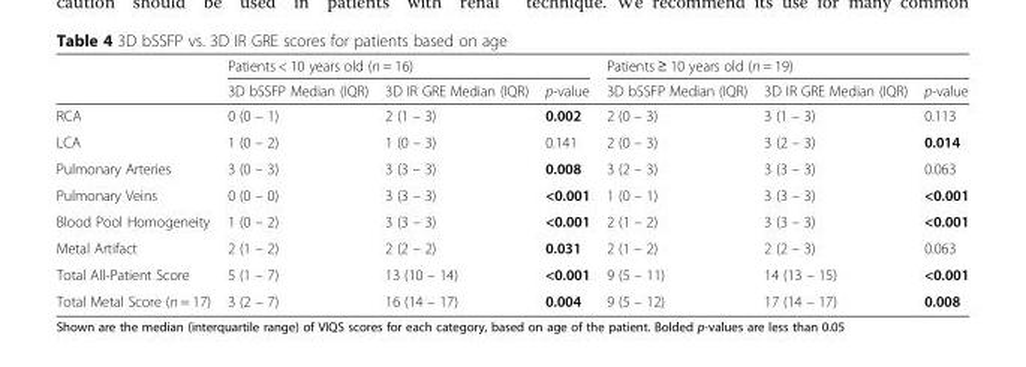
<table><thead><tr><td rowspan="2"></td><td colspan="3">Patients &lt; 10 years old (n = 16)</td><td colspan="3">Patients ≥ 10 years old (n = 19)</td></tr><tr><td>3D bSSFP Median (IQR)</td><td>3D IR GRE Median (IQR)</td><td>p-value</td><td>3D bSSFP Median (IQR)</td><td>3D IR GRE Median (IQR)</td><td>p-value</td></tr></thead><tbody><tr><td>RCA</td><td>0 (0 – 1)</td><td>2 (1 – 3)</td><td>0.002</td><td>2 (0 – 3)</td><td>3 (1 – 3)</td><td>0.113</td></tr><tr><td>LCA</td><td>1 (0 – 2)</td><td>1 (0 – 3)</td><td>0.141</td><td>2 (0 – 3)</td><td>3 (2 – 3)</td><td>0.014</td></tr><tr><td>Pulmonary Arteries</td><td>3 (0 – 3)</td><td>3 (3 – 3)</td><td>0.008</td><td>3 (2 – 3)</td><td>3 (3 – 3)</td><td>0.063</td></tr><tr><td>Pulmonary Veins</td><td>0 (0 – 0)</td><td>3 (3 – 3)</td><td>&lt;0.001</td><td>1 (0 – 1)</td><td>3 (3 – 3)</td><td>&lt;0.001</td></tr><tr><td>Blood Pool Homogeneity</td><td>1 (0 – 2)</td><td>3 (3 – 3)</td><td>&lt;0.001</td><td>2 (1 – 2)</td><td>3 (3 – 3)</td><td>&lt;0.001</td></tr><tr><td>Metal Artifact</td><td>2 (1 – 2)</td><td>2 (2 – 2)</td><td>0.031</td><td>2 (1 – 2)</td><td>2 (2 – 3)</td><td>0.063</td></tr><tr><td>Total All-Patient Score</td><td>5 (1 – 7)</td><td>13 (10 – 14)</td><td>&lt;0.001</td><td>9 (5 – 11)</td><td>14 (13 – 15)</td><td>&lt;0.001</td></tr><tr><td>Total Metal Score (n = 17)</td><td>3 (2 – 7)</td><td>16 (14 – 17)</td><td>0.004</td><td>9 (5 – 12)</td><td>17 (14 – 17)</td><td>0.008</td></tr></tbody></table>